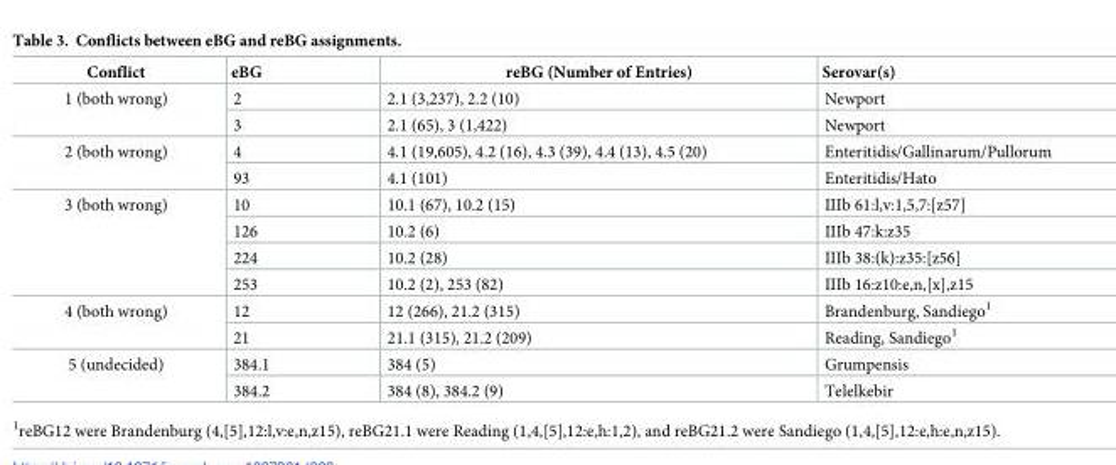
<table><thead><tr><td>Conflict</td><td>eBG</td><td>reBG (Number of Entries)</td><td>Serovar(s)</td></tr></thead><tbody><tr><td rowspan="2">1 (both wrong)</td><td>2</td><td>2.1 (3,237), 2.2 (10)</td><td>Newport</td></tr><tr><td>3</td><td>2.1 (65), 3 (1,422)</td><td>Newport</td></tr><tr><td rowspan="2">2 (both wrong)</td><td>4</td><td>4.1 (19,605), 4.2 (16), 4.3 (39), 4.4 (13), 4.5 (20)</td><td>Enteritidis/Gallinarum/Pullorum</td></tr><tr><td>93</td><td>4.1 (101)</td><td>Enteritidis/Hato</td></tr><tr><td rowspan="4">3 (both wrong)</td><td>10</td><td>10.1 (67), 10.2 (15)</td><td>IIIb 61:l,v:1,5,7:[z57]</td></tr><tr><td>126</td><td>10.2 (6)</td><td>IIIb 47:k:z35</td></tr><tr><td>224</td><td>10.2 (28)</td><td>IIIb 38:(k):z35:[z56]</td></tr><tr><td>253</td><td>10.2 (2), 253 (82)</td><td>IIIb 16:z10:e,n,[x],z15</td></tr><tr><td rowspan="2">4 (both wrong)</td><td>12</td><td>12 (266), 21.2 (315)</td><td>Brandenburg, Sandiego<sup>1</sup></td></tr><tr><td>21</td><td>21.1 (315), 21.2 (209)</td><td>Reading, Sandiego<sup>1</sup></td></tr><tr><td rowspan="2">5 (undecided)</td><td>384.1</td><td>384 (5)</td><td>Grumpensis</td></tr><tr><td>384.2</td><td>384 (8), 384.2 (9)</td><td>Telelkebir</td></tr></tbody></table>